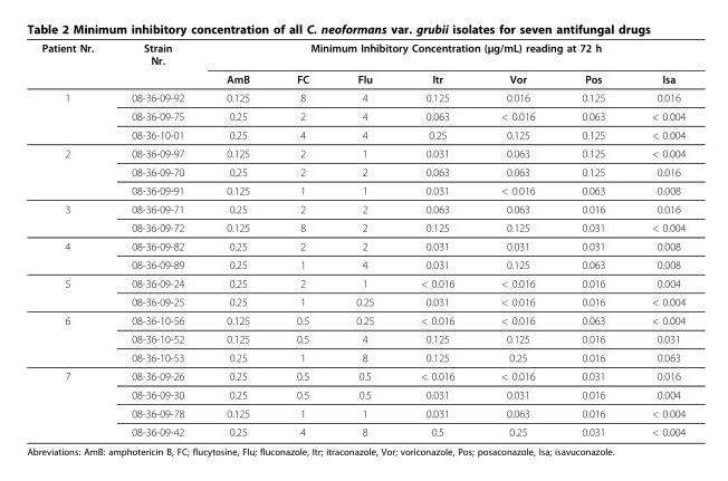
<table><thead><tr><td rowspan="2">Patient Nr.</td><td rowspan="2">Strain Nr.</td><td colspan="7">Minimum Inhibitory Concentration (μg/mL) reading at 72 h</td></tr><tr><td>AmB</td><td>FC</td><td>Flu</td><td>Itr</td><td>Vor</td><td>Pos</td><td>Isa</td></tr></thead><tbody><tr><td rowspan="3">1</td><td>08-36-09-92</td><td>0.125</td><td>8</td><td>4</td><td>0.125</td><td>0.016</td><td>0.125</td><td>0.016</td></tr><tr><td>08-36-09-75</td><td>0.25</td><td>2</td><td>4</td><td>0.063</td><td>&lt; 0.016</td><td>0.063</td><td>&lt; 0.004</td></tr><tr><td>08-36-10-01</td><td>0.25</td><td>4</td><td>4</td><td>0.25</td><td>0.125</td><td>0.125</td><td>&lt; 0.004</td></tr><tr><td rowspan="3">2</td><td>08-36-09-97</td><td>0.125</td><td>2</td><td>1</td><td>0.031</td><td>0.063</td><td>0.125</td><td>&lt; 0.004</td></tr><tr><td>08-36-09-70</td><td>0.25</td><td>2</td><td>2</td><td>0.063</td><td>0.063</td><td>0.125</td><td>0.016</td></tr><tr><td>08-36-09-91</td><td>0.125</td><td>1</td><td>1</td><td>0.031</td><td>&lt; 0.016</td><td>0.063</td><td>0.008</td></tr><tr><td rowspan="2">3</td><td>08-36-09-71</td><td>0.25</td><td>2</td><td>2</td><td>0.063</td><td>0.063</td><td>0.016</td><td>0.016</td></tr><tr><td>08-36-09-72</td><td>0.125</td><td>8</td><td>2</td><td>0.125</td><td>0.125</td><td>0.031</td><td>&lt; 0.004</td></tr><tr><td rowspan="2">4</td><td>08-36-09-82</td><td>0.25</td><td>2</td><td>2</td><td>0.031</td><td>0.031</td><td>0.031</td><td>0.008</td></tr><tr><td>08-36-09-89</td><td>0.25</td><td>1</td><td>4</td><td>0.031</td><td>0.125</td><td>0.063</td><td>0.008</td></tr><tr><td rowspan="2">5</td><td>08-36-09-24</td><td>0.25</td><td>2</td><td>1</td><td>&lt; 0.016</td><td>&lt; 0.016</td><td>0.016</td><td>0.004</td></tr><tr><td>08-36-09-25</td><td>0.25</td><td>1</td><td>0.25</td><td>0.031</td><td>&lt; 0.016</td><td>0.016</td><td>&lt; 0.004</td></tr><tr><td rowspan="3">6</td><td>08-36-10-56</td><td>0.125</td><td>0.5</td><td>0.25</td><td>&lt; 0.016</td><td>&lt; 0.016</td><td>0.063</td><td>&lt; 0.004</td></tr><tr><td>08-36-10-52</td><td>0.125</td><td>0.5</td><td>4</td><td>0.125</td><td>0.125</td><td>0.016</td><td>0.031</td></tr><tr><td>08-36-10-53</td><td>0.25</td><td>1</td><td>8</td><td>0.125</td><td>0.25</td><td>0.016</td><td>0.063</td></tr><tr><td rowspan="4">7</td><td>08-36-09-26</td><td>0.25</td><td>0.5</td><td>0.5</td><td>&lt; 0.016</td><td>&lt; 0.016</td><td>0.031</td><td>0.016</td></tr><tr><td>08-36-09-30</td><td>0.25</td><td>0.5</td><td>0.5</td><td>0.031</td><td>0.031</td><td>0.016</td><td>0.004</td></tr><tr><td>08-36-09-78</td><td>0.125</td><td>1</td><td>1</td><td>0.031</td><td>0.063</td><td>0.016</td><td>&lt; 0.004</td></tr><tr><td>08-36-09-42</td><td>0.25</td><td>4</td><td>8</td><td>0.5</td><td>0.25</td><td>0.031</td><td>&lt; 0.004</td></tr></tbody></table>